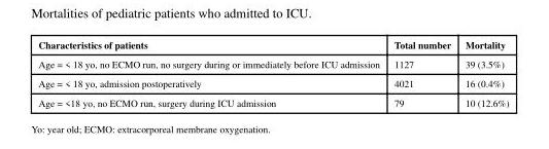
<table><thead><tr><td>Characteristics of patients</td><td>Total number</td><td>Mortality</td></tr></thead><tbody><tr><td>Age = &lt; 18 yo, no ECMO run, no surgery during or immediately before ICU admission</td><td>1127</td><td>39 (3.5%)</td></tr><tr><td>Age = &lt; 18 yo, admission postoperatively</td><td>4021</td><td>16 (0.4%)</td></tr><tr><td>Age = &lt;18 yo, no ECMO run, surgery during ICU admission</td><td>79</td><td>10 (12.6%)</td></tr></tbody></table>